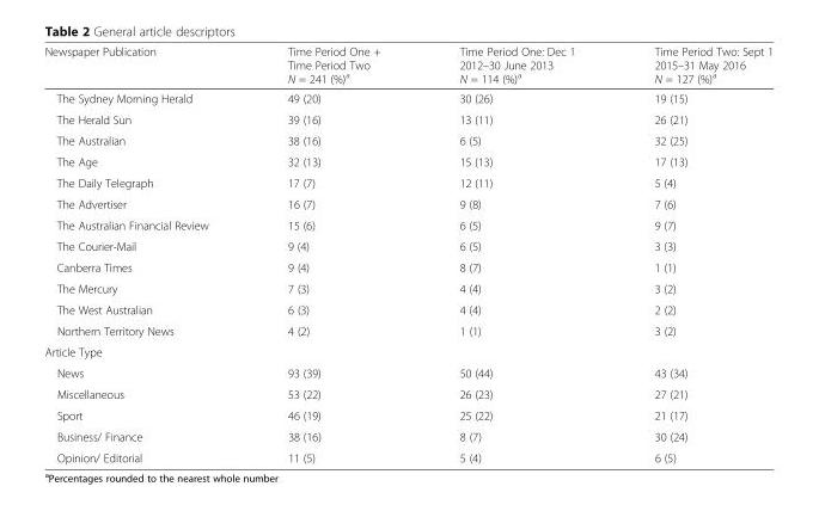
<table><thead><tr><td>Newspaper Publication</td><td>Time Period One + Time Period Two N = 241 (%)<sup>a</sup></td><td>Time Period One: Dec 1 2012–30 June 2013 N = 114 (%)<sup>a</sup></td><td>Time Period Two: Sept 1 2015–31 May 2016 N = 127 (%)<sup>a</sup></td></tr></thead><tbody><tr><td>The Sydney Morning Herald</td><td>49 (20)</td><td>30 (26)</td><td>19 (15)</td></tr><tr><td>The Herald Sun</td><td>39 (16)</td><td>13 (11)</td><td>26 (21)</td></tr><tr><td>The Australian</td><td>38 (16)</td><td>6 (5)</td><td>32 (25)</td></tr><tr><td>The Age</td><td>32 (13)</td><td>15 (13)</td><td>17 (13)</td></tr><tr><td>The Daily Telegraph</td><td>17 (7)</td><td>12 (11)</td><td>5 (4)</td></tr><tr><td>The Advertiser</td><td>16 (7)</td><td>9 (8)</td><td>7 (6)</td></tr><tr><td>The Australian Financial Review</td><td>15 (6)</td><td>6 (5)</td><td>9 (7)</td></tr><tr><td>The Courier-Mail</td><td>9 (4)</td><td>6 (5)</td><td>3 (3)</td></tr><tr><td>Canberra Times</td><td>9 (4)</td><td>8 (7)</td><td>1 (1)</td></tr><tr><td>The Mercury</td><td>7 (3)</td><td>4 (4)</td><td>3 (2)</td></tr><tr><td>The West Australian</td><td>6 (3)</td><td>4 (4)</td><td>2 (2)</td></tr><tr><td>Northern Territory News</td><td>4 (2)</td><td>1 (1)</td><td>3 (2)</td></tr><tr><td colspan="4">Article Type</td></tr><tr><td>News</td><td>93 (39)</td><td>50 (44)</td><td>43 (34)</td></tr><tr><td>Miscellaneous</td><td>53 (22)</td><td>26 (23)</td><td>27 (21)</td></tr><tr><td>Sport</td><td>46 (19)</td><td>25 (22)</td><td>21 (17)</td></tr><tr><td>Business/ Finance</td><td>38 (16)</td><td>8 (7)</td><td>30 (24)</td></tr><tr><td>Opinion/ Editorial</td><td>11 (5)</td><td>5 (4)</td><td>6 (5)</td></tr></tbody></table>